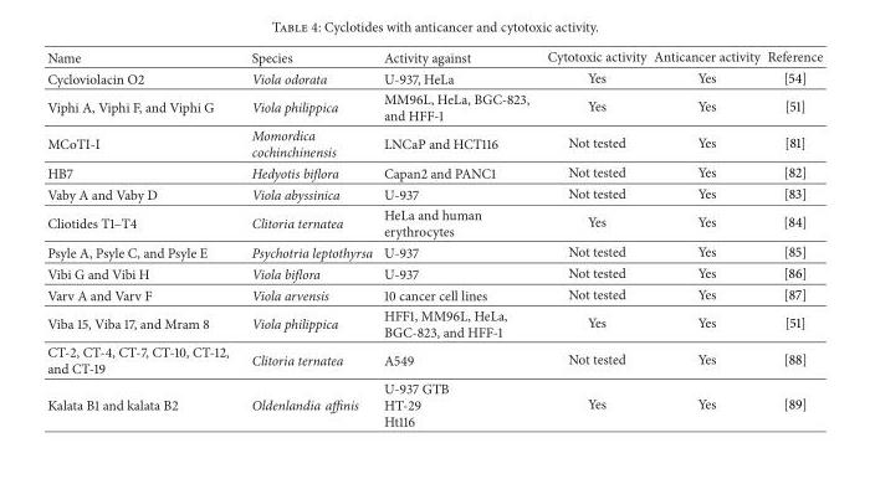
<table><thead><tr><td>Name</td><td>Species</td><td>Activity against</td><td>Cytotoxic activity</td><td>Anticancer activity</td><td>Reference</td></tr></thead><tbody><tr><td>Cycloviolacin O2</td><td>Viola odorata</td><td>U-937, HeLa</td><td>Yes</td><td>Yes</td><td>[54]</td></tr><tr><td>Viphi A, Viphi F, and Viphi G</td><td>Viola philippica</td><td>MM96L, HeLa, BGC-823, and HFF-1</td><td>Yes</td><td>Yes</td><td>[51]</td></tr><tr><td>MCoTI-I</td><td>Momordica cochinchinensis</td><td>LNCaP and HCT116</td><td>Not tested</td><td>Yes</td><td>[81]</td></tr><tr><td>HB7</td><td>Hedyotis biflora</td><td>Capan2 and PANC1</td><td>Not tested</td><td>Yes</td><td>[82]</td></tr><tr><td>Vaby A and Vaby D</td><td>Viola abyssinica</td><td>U-937</td><td>Not tested</td><td>Yes</td><td>[83]</td></tr><tr><td>Cliotides T1–T4</td><td>Clitoria ternatea</td><td>HeLa and human erythrocytes</td><td>Yes</td><td>Yes</td><td>[84]</td></tr><tr><td>Psyle A, Psyle C, and Psyle E</td><td>Psychotria leptothyrsa</td><td>U-937</td><td>Not tested</td><td>Yes</td><td>[85]</td></tr><tr><td>Vibi G and Vibi H</td><td>Viola biflora</td><td>U-937</td><td>Not tested</td><td>Yes</td><td>[86]</td></tr><tr><td>Varv A and Varv F</td><td>Viola arvensis</td><td>10 cancer cell lines</td><td>Not tested</td><td>Yes</td><td>[87]</td></tr><tr><td>Viba 15, Viba 17, and Mram 8</td><td>Viola philippica</td><td>HFF1, MM96L, HeLa, BGC-823, and HFF-1</td><td>Yes</td><td>Yes</td><td>[51]</td></tr><tr><td>CT-2, CT-4, CT-7, CT-10, CT-12, and CT-19</td><td>Clitoria ternatea</td><td>A549</td><td>Not tested</td><td>Yes</td><td>[88]</td></tr><tr><td>Kalata B1 and kalata B2</td><td>Oldenlandia affinis</td><td>U-937 GTB HT-29 Ht116</td><td>Yes</td><td>Yes</td><td>[89]</td></tr></tbody></table>